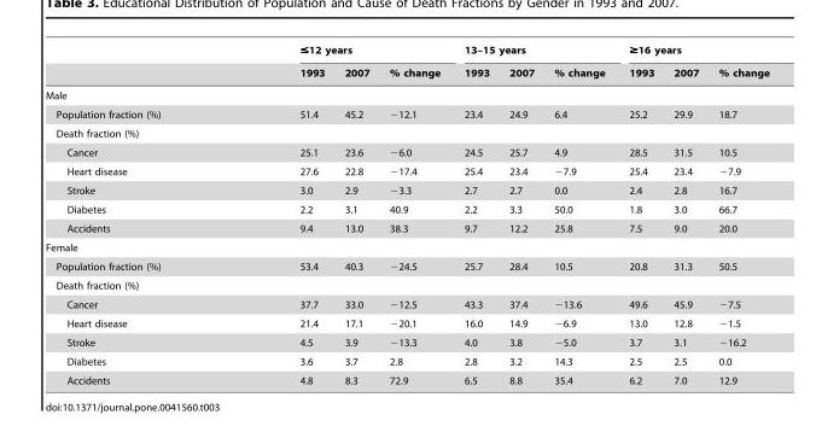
<table><thead><tr><td rowspan="2"></td><td colspan="3">≤12 years</td><td colspan="3">13–15 years</td><td colspan="3">≥16 years</td></tr><tr><td>1993</td><td>2007</td><td>% change</td><td>1993</td><td>2007</td><td>% change</td><td>1993</td><td>2007</td><td>% change</td></tr></thead><tbody><tr><td colspan="10">Male</td></tr><tr><td>Population fraction (%)</td><td>51.4</td><td>45.2</td><td>−12.1</td><td>23.4</td><td>24.9</td><td>6.4</td><td>25.2</td><td>29.9</td><td>18.7</td></tr><tr><td colspan="10">Death fraction (%)</td></tr><tr><td>Cancer</td><td>25.1</td><td>23.6</td><td>−6.0</td><td>24.5</td><td>25.7</td><td>4.9</td><td>28.5</td><td>31.5</td><td>10.5</td></tr><tr><td>Heart disease</td><td>27.6</td><td>22.8</td><td>−17.4</td><td>25.4</td><td>23.4</td><td>−7.9</td><td>25.4</td><td>23.4</td><td>−7.9</td></tr><tr><td>Stroke</td><td>3.0</td><td>2.9</td><td>−3.3</td><td>2.7</td><td>2.7</td><td>0.0</td><td>2.4</td><td>2.8</td><td>16.7</td></tr><tr><td>Diabetes</td><td>2.2</td><td>3.1</td><td>40.9</td><td>2.2</td><td>3.3</td><td>50.0</td><td>1.8</td><td>3.0</td><td>66.7</td></tr><tr><td>Accidents</td><td>9.4</td><td>13.0</td><td>38.3</td><td>9.7</td><td>12.2</td><td>25.8</td><td>7.5</td><td>9.0</td><td>20.0</td></tr><tr><td colspan="10">Female</td></tr><tr><td>Population fraction (%)</td><td>53.4</td><td>40.3</td><td>−24.5</td><td>25.7</td><td>28.4</td><td>10.5</td><td>20.8</td><td>31.3</td><td>50.5</td></tr><tr><td colspan="10">Death fraction (%)</td></tr><tr><td>Cancer</td><td>37.7</td><td>33.0</td><td>−12.5</td><td>43.3</td><td>37.4</td><td>−13.6</td><td>49.6</td><td>45.9</td><td>−7.5</td></tr><tr><td>Heart disease</td><td>21.4</td><td>17.1</td><td>−20.1</td><td>16.0</td><td>14.9</td><td>−6.9</td><td>13.0</td><td>12.8</td><td>−1.5</td></tr><tr><td>Stroke</td><td>4.5</td><td>3.9</td><td>−13.3</td><td>4.0</td><td>3.8</td><td>−5.0</td><td>3.7</td><td>3.1</td><td>−16.2</td></tr><tr><td>Diabetes</td><td>3.6</td><td>3.7</td><td>2.8</td><td>2.8</td><td>3.2</td><td>14.3</td><td>2.5</td><td>2.5</td><td>0.0</td></tr><tr><td>Accidents</td><td>4.8</td><td>8.3</td><td>72.9</td><td>6.5</td><td>8.8</td><td>35.4</td><td>6.2</td><td>7.0</td><td>12.9</td></tr></tbody></table>